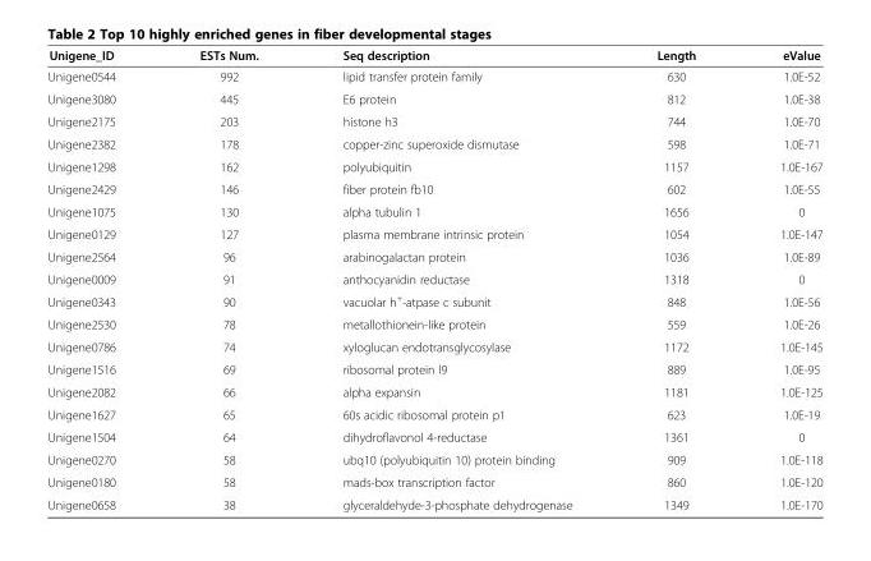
<table><thead><tr><td>Unigene_ID</td><td>ESTs Num.</td><td>Seq description</td><td>Length</td><td>eValue</td></tr></thead><tbody><tr><td>Unigene0544</td><td>992</td><td>lipid transfer protein family</td><td>630</td><td>1.0E-52</td></tr><tr><td>Unigene3080</td><td>445</td><td>E6 protein</td><td>812</td><td>1.0E-38</td></tr><tr><td>Unigene2175</td><td>203</td><td>histone h3</td><td>744</td><td>1.0E-70</td></tr><tr><td>Unigene2382</td><td>178</td><td>copper-zinc superoxide dismutase</td><td>598</td><td>1.0E-71</td></tr><tr><td>Unigene1298</td><td>162</td><td>polyubiquitin</td><td>1157</td><td>1.0E-167</td></tr><tr><td>Unigene2429</td><td>146</td><td>fiber protein fb10</td><td>602</td><td>1.0E-55</td></tr><tr><td>Unigene1075</td><td>130</td><td>alpha tubulin 1</td><td>1656</td><td>0</td></tr><tr><td>Unigene0129</td><td>127</td><td>plasma membrane intrinsic protein</td><td>1054</td><td>1.0E-147</td></tr><tr><td>Unigene2564</td><td>96</td><td>arabinogalactan protein</td><td>1036</td><td>1.0E-89</td></tr><tr><td>Unigene0009</td><td>91</td><td>anthocyanidin reductase</td><td>1318</td><td>0</td></tr><tr><td>Unigene0343</td><td>90</td><td>vacuolar h<sup>+</sup>-atpase c subunit</td><td>848</td><td>1.0E-56</td></tr><tr><td>Unigene2530</td><td>78</td><td>metallothionein-like protein</td><td>559</td><td>1.0E-26</td></tr><tr><td>Unigene0786</td><td>74</td><td>xyloglucan endotransglycosylase</td><td>1172</td><td>1.0E-145</td></tr><tr><td>Unigene1516</td><td>69</td><td>ribosomal protein l9</td><td>889</td><td>1.0E-95</td></tr><tr><td>Unigene2082</td><td>66</td><td>alpha expansin</td><td>1181</td><td>1.0E-125</td></tr><tr><td>Unigene1627</td><td>65</td><td>60s acidic ribosomal protein p1</td><td>623</td><td>1.0E-19</td></tr><tr><td>Unigene1504</td><td>64</td><td>dihydroflavonol 4-reductase</td><td>1361</td><td>0</td></tr><tr><td>Unigene0270</td><td>58</td><td>ubq10 (polyubiquitin 10) protein binding</td><td>909</td><td>1.0E-118</td></tr><tr><td>Unigene0180</td><td>58</td><td>mads-box transcription factor</td><td>860</td><td>1.0E-120</td></tr><tr><td>Unigene0658</td><td>38</td><td>glyceraldehyde-3-phosphate dehydrogenase</td><td>1349</td><td>1.0E-170</td></tr></tbody></table>